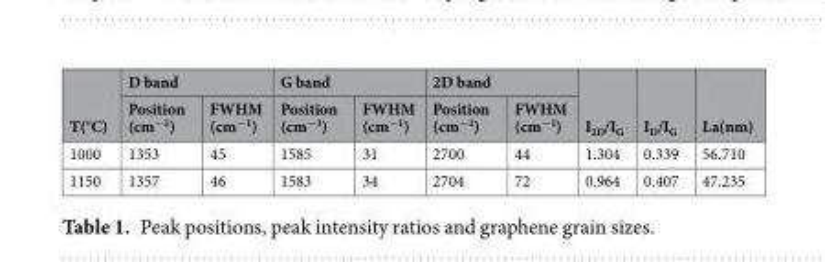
<table><thead><tr><td rowspan="2">T(°C)</td><td colspan="2">D band</td><td colspan="2">G band</td><td colspan="2">2D band</td><td rowspan="2">I<sub>2D</sub>/I<sub>G</sub></td><td rowspan="2">I<sub>D</sub>/I<sub>G</sub></td><td rowspan="2">La(nm)</td></tr><tr><td>Position (cm<sup>−1</sup>)</td><td>FWHM (cm<sup>−1</sup>)</td><td>Position (cm<sup>−1</sup>)</td><td>FWHM (cm<sup>−1</sup>)</td><td>Position (cm<sup>−1</sup>)</td><td>FWHM (cm<sup>−1</sup>)</td></tr></thead><tbody><tr><td>1000</td><td>1353</td><td>45</td><td>1585</td><td>31</td><td>2700</td><td>44</td><td>1.304</td><td>0.339</td><td>56.710</td></tr><tr><td>1150</td><td>1357</td><td>46</td><td>1583</td><td>34</td><td>2704</td><td>72</td><td>0.964</td><td>0.407</td><td>47.235</td></tr></tbody></table>